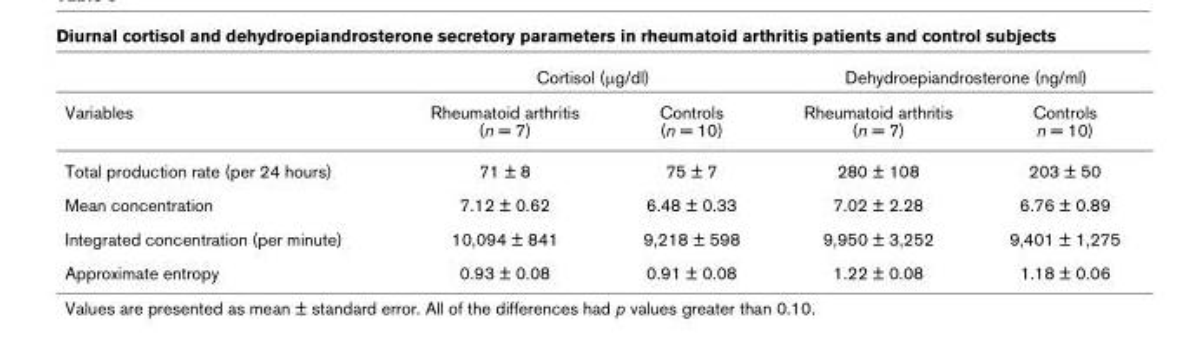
<table><thead><tr><td rowspan="2">Variables</td><td colspan="2">Cortisol (µg/dl)</td><td colspan="2">Dehydroepiandrosterone (ng/ml)</td></tr><tr><td>Rheumatoid arthritis (n = 7)</td><td>Controls (n = 10)</td><td>Rheumatoid arthritis (n = 7)</td><td>Controls n = 10)</td></tr></thead><tbody><tr><td>Total production rate (per 24 hours)</td><td>71 ± 8</td><td>75 ± 7</td><td>280 ± 108</td><td>203 ± 50</td></tr><tr><td>Mean concentration</td><td>7.12 ± 0.62</td><td>6.48 ± 0.33</td><td>7.02 ± 2.28</td><td>6.76 ± 0.89</td></tr><tr><td>Integrated concentration (per minute)</td><td>10,094 ± 841</td><td>9,218 ± 598</td><td>9,950 ± 3,252</td><td>9,401 ± 1,275</td></tr><tr><td>Approximate entropy</td><td>0.93 ± 0.08</td><td>0.91 ± 0.08</td><td>1.22 ± 0.08</td><td>1.18 ± 0.06</td></tr></tbody></table>